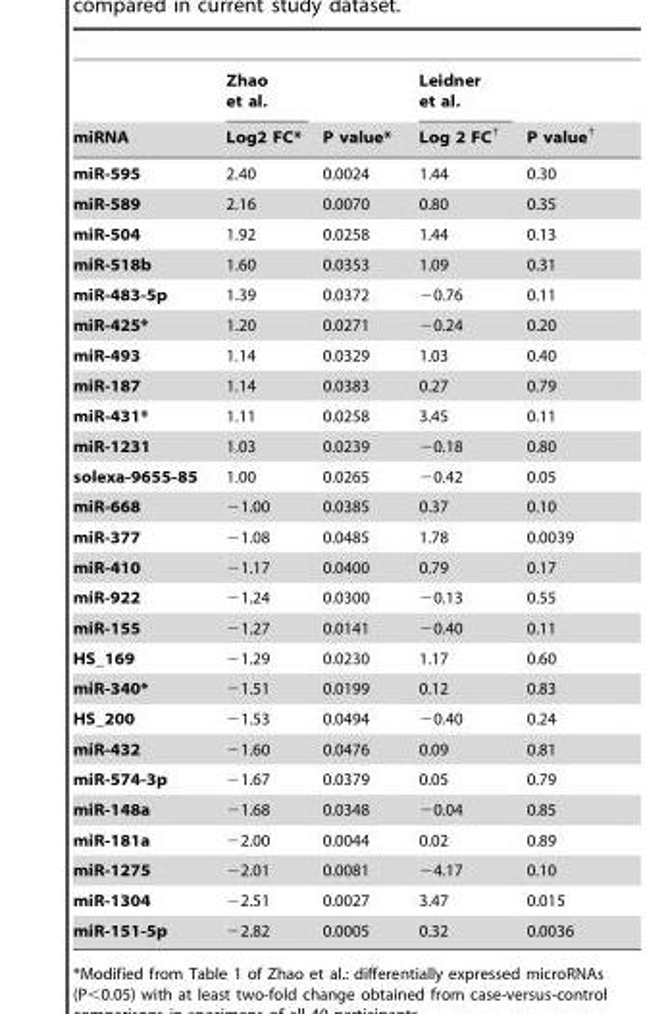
<table><thead><tr><td rowspan="2">miRNA</td><td rowspan="2">Zhao et al. Log2 FC*</td><td rowspan="2">P value*</td><td rowspan="2">Leidner et al. Log 2 FC†</td><td rowspan="2">P value†</td></tr><tr></tr></thead><tbody><tr><td>miR-595</td><td>2.40</td><td>0.0024</td><td>1.44</td><td>0.30</td></tr><tr><td>miR-589</td><td>2.16</td><td>0.0070</td><td>0.80</td><td>0.35</td></tr><tr><td>miR-504</td><td>1.92</td><td>0.0258</td><td>1.44</td><td>0.13</td></tr><tr><td>miR-518b</td><td>1.60</td><td>0.0353</td><td>1.09</td><td>0.31</td></tr><tr><td>miR-483-5p</td><td>1.39</td><td>0.0372</td><td>−0.76</td><td>0.11</td></tr><tr><td>miR-425*</td><td>1.20</td><td>0.0271</td><td>−0.24</td><td>0.20</td></tr><tr><td>miR-493</td><td>1.14</td><td>0.0329</td><td>1.03</td><td>0.40</td></tr><tr><td>miR-187</td><td>1.14</td><td>0.0383</td><td>0.27</td><td>0.79</td></tr><tr><td>miR-431*</td><td>1.11</td><td>0.0258</td><td>3.45</td><td>0.11</td></tr><tr><td>miR-1231</td><td>1.03</td><td>0.0239</td><td>−0.18</td><td>0.80</td></tr><tr><td>solexa-9655-85</td><td>1.00</td><td>0.0265</td><td>−0.42</td><td>0.05</td></tr><tr><td>miR-668</td><td>−1.00</td><td>0.0385</td><td>0.37</td><td>0.10</td></tr><tr><td>miR-377</td><td>−1.08</td><td>0.0485</td><td>1.78</td><td>0.0039</td></tr><tr><td>miR-410</td><td>−1.17</td><td>0.0400</td><td>0.79</td><td>0.17</td></tr><tr><td>miR-922</td><td>−1.24</td><td>0.0300</td><td>−0.13</td><td>0.55</td></tr><tr><td>miR-155</td><td>−1.27</td><td>0.0141</td><td>−0.40</td><td>0.11</td></tr><tr><td>HS_169</td><td>−1.29</td><td>0.0230</td><td>1.17</td><td>0.60</td></tr><tr><td>miR-340*</td><td>−1.51</td><td>0.0199</td><td>0.12</td><td>0.83</td></tr><tr><td>HS_200</td><td>−1.53</td><td>0.0494</td><td>−0.40</td><td>0.24</td></tr><tr><td>miR-432</td><td>−1.60</td><td>0.0476</td><td>0.09</td><td>0.81</td></tr><tr><td>miR-574-3p</td><td>−1.67</td><td>0.0379</td><td>0.05</td><td>0.79</td></tr><tr><td>miR-148a</td><td>−1.68</td><td>0.0348</td><td>−0.04</td><td>0.85</td></tr><tr><td>miR-181a</td><td>−2.00</td><td>0.0044</td><td>0.02</td><td>0.89</td></tr><tr><td>miR-1275</td><td>−2.01</td><td>0.0081</td><td>−4.17</td><td>0.10</td></tr><tr><td>miR-1304</td><td>−2.51</td><td>0.0027</td><td>3.47</td><td>0.015</td></tr><tr><td>miR-151-5p</td><td>−2.82</td><td>0.0005</td><td>0.32</td><td>0.0036</td></tr></tbody></table>